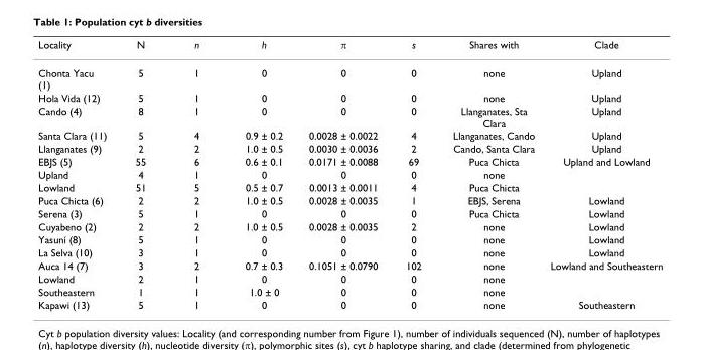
<table><thead><tr><td>Locality</td><td>N</td><td>n</td><td>h</td><td>π</td><td>s</td><td>Shares with</td><td>Clade</td></tr></thead><tbody><tr><td>Chonta Yacu (1)</td><td>5</td><td>1</td><td>0</td><td>0</td><td>0</td><td>none</td><td>Upland</td></tr><tr><td>Hola Vida (12)</td><td>5</td><td>1</td><td>0</td><td>0</td><td>0</td><td>none</td><td>Upland</td></tr><tr><td>Cando (4)</td><td>8</td><td>1</td><td>0</td><td>0</td><td>0</td><td>Llanganates, Sta Clara</td><td>Upland</td></tr><tr><td>Santa Clara (11)</td><td>5</td><td>4</td><td>0.9 ± 0.2</td><td>0.0028 ± 0.0022</td><td>4</td><td>Llanganates, Cando</td><td>Upland</td></tr><tr><td>Llanganates (9)</td><td>2</td><td>2</td><td>1.0 ± 0.5</td><td>0.0030 ± 0.0036</td><td>2</td><td>Cando, Santa Clara</td><td>Upland</td></tr><tr><td>EBJS (5)</td><td>55</td><td>6</td><td>0.6 ± 0.1</td><td>0.0171 ± 0.0088</td><td>69</td><td>Puca Chicta</td><td>Upland and Lowland</td></tr><tr><td>Upland</td><td>4</td><td>1</td><td>0</td><td>0</td><td>0</td><td>none</td><td></td></tr><tr><td>Lowland</td><td>51</td><td>5</td><td>0.5 ± 0.7</td><td>0.0013 ± 0.0011</td><td>4</td><td>Puca Chicta</td><td></td></tr><tr><td>Puca Chicta (6)</td><td>2</td><td>2</td><td>1.0 ± 0.5</td><td>0.0028 ± 0.0035</td><td>1</td><td>EBJS, Serena</td><td>Lowland</td></tr><tr><td>Serena (3)</td><td>5</td><td>1</td><td>0</td><td>0</td><td>0</td><td>Puca Chicta</td><td>Lowland</td></tr><tr><td>Cuyabeno (2)</td><td>2</td><td>2</td><td>1.0 ± 0.5</td><td>0.0028 ± 0.0035</td><td>2</td><td>none</td><td>Lowland</td></tr><tr><td>Yasuní (8)</td><td>5</td><td>1</td><td>0</td><td>0</td><td>0</td><td>none</td><td>Lowland</td></tr><tr><td>La Selva (10)</td><td>3</td><td>1</td><td>0</td><td>0</td><td>0</td><td>none</td><td>Lowland</td></tr><tr><td>Auca 14 (7)</td><td>3</td><td>2</td><td>0.7 ± 0.3</td><td>0.1051 ± 0.0790</td><td>102</td><td>none</td><td>Lowland and Southeastern</td></tr><tr><td>Lowland</td><td>2</td><td>1</td><td>0</td><td>0</td><td>0</td><td>none</td><td></td></tr><tr><td>Southeastern</td><td>1</td><td>1</td><td>1.0 ± 0</td><td>0</td><td>0</td><td>none</td><td></td></tr><tr><td>Kapawi (13)</td><td>5</td><td>1</td><td>0</td><td>0</td><td>0</td><td>none</td><td>Southeastern</td></tr></tbody></table>